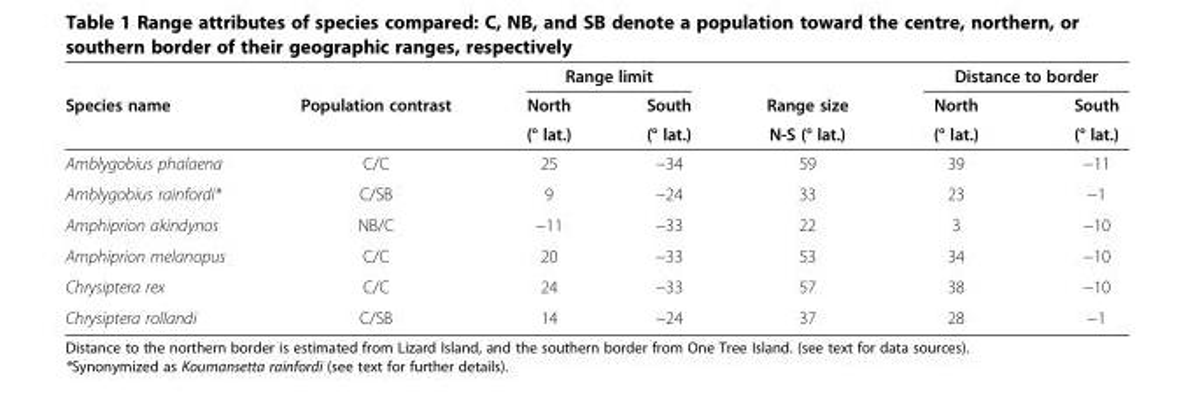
<table><thead><tr><td rowspan="3">Species name</td><td rowspan="3">Population contrast</td><td colspan="2">Range limit</td><td rowspan="3">Range size N-S (° lat.)</td><td colspan="2">Distance to border</td></tr><tr><td rowspan="2">North (° lat.)</td><td rowspan="2">South (° lat.)</td><td rowspan="2">North (° lat.)</td><td rowspan="2">South (° lat.)</td></tr><tr></tr></thead><tbody><tr><td>Amblygobius phalaena</td><td>C/C</td><td>25</td><td>−34</td><td>59</td><td>39</td><td>−11</td></tr><tr><td>Amblygobius rainfordi*</td><td>C/SB</td><td>9</td><td>−24</td><td>33</td><td>23</td><td>−1</td></tr><tr><td>Amphiprion akindynos</td><td>NB/C</td><td>−11</td><td>−33</td><td>22</td><td>3</td><td>−10</td></tr><tr><td>Amphiprion melanopus</td><td>C/C</td><td>20</td><td>−33</td><td>53</td><td>34</td><td>−10</td></tr><tr><td>Chrysiptera rex</td><td>C/C</td><td>24</td><td>−33</td><td>57</td><td>38</td><td>−10</td></tr><tr><td>Chrysiptera rollandi</td><td>C/SB</td><td>14</td><td>−24</td><td>37</td><td>28</td><td>−1</td></tr></tbody></table>